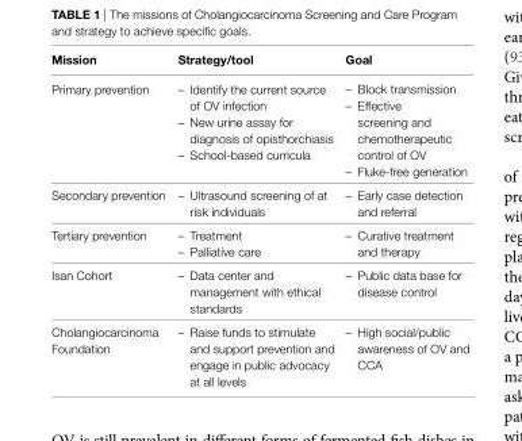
<table><thead><tr><td>Mission</td><td>Strategy/tool</td><td>goal</td></tr></thead><tbody><tr><td>Primary prevention</td><td>– Identify the current source of OV infection – New urine assay for diagnosis of opisthorchiasis – School-based curricula</td><td>– Block transmission – Effective screening and chemotherapeutic control of OV – Fluke-free generation</td></tr><tr><td>Secondary prevention</td><td>– Ultrasound screening of at risk individuals</td><td>– Early case detection and referral</td></tr><tr><td>Tertiary prevention</td><td>– Treatment – Palliative care</td><td>– Curative treatment and therapy</td></tr><tr><td>Isan Cohort</td><td>– Data center and management with ethical standards</td><td>– Public data base for disease control</td></tr><tr><td>Cholangiocarcinoma Foundation</td><td>– Raise funds to stimulate and support prevention and engage in public advocacy at all levels</td><td>– High social/public awareness of OV and CCA</td></tr></tbody></table>